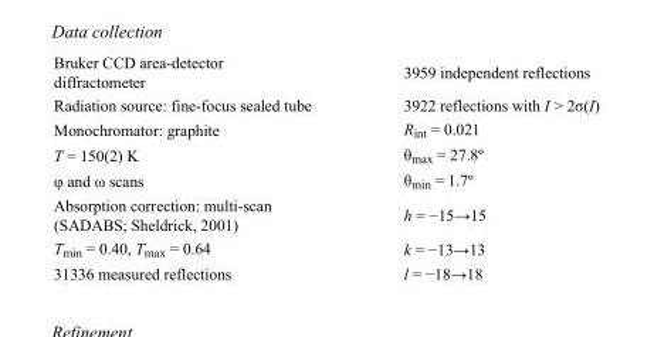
<table><tbody><tr><td>Bruker CCD area-detector diffractometer</td><td>3959 independent reflections</td></tr><tr><td>Radiation source: fine-focus sealed tube</td><td>3922 reflections with I &gt; 2σ(I)</td></tr><tr><td>Monochromator: graphite</td><td>R<sub>int</sub> = 0.021</td></tr><tr><td>T = 150(2) K</td><td>θ<sub>max</sub> = 27.8º</td></tr><tr><td>φ and ω scans</td><td>θ<sub>min</sub> = 1.7º</td></tr><tr><td>Absorption correction: multi-scan (SADABS; Sheldrick, 2001)</td><td>h = −15→15</td></tr><tr><td>T<sub>min</sub> = 0.40, T<sub>max</sub> = 0.64</td><td>k = −13→13</td></tr><tr><td>31336 measured reflections</td><td>l = −18→18</td></tr></tbody></table>